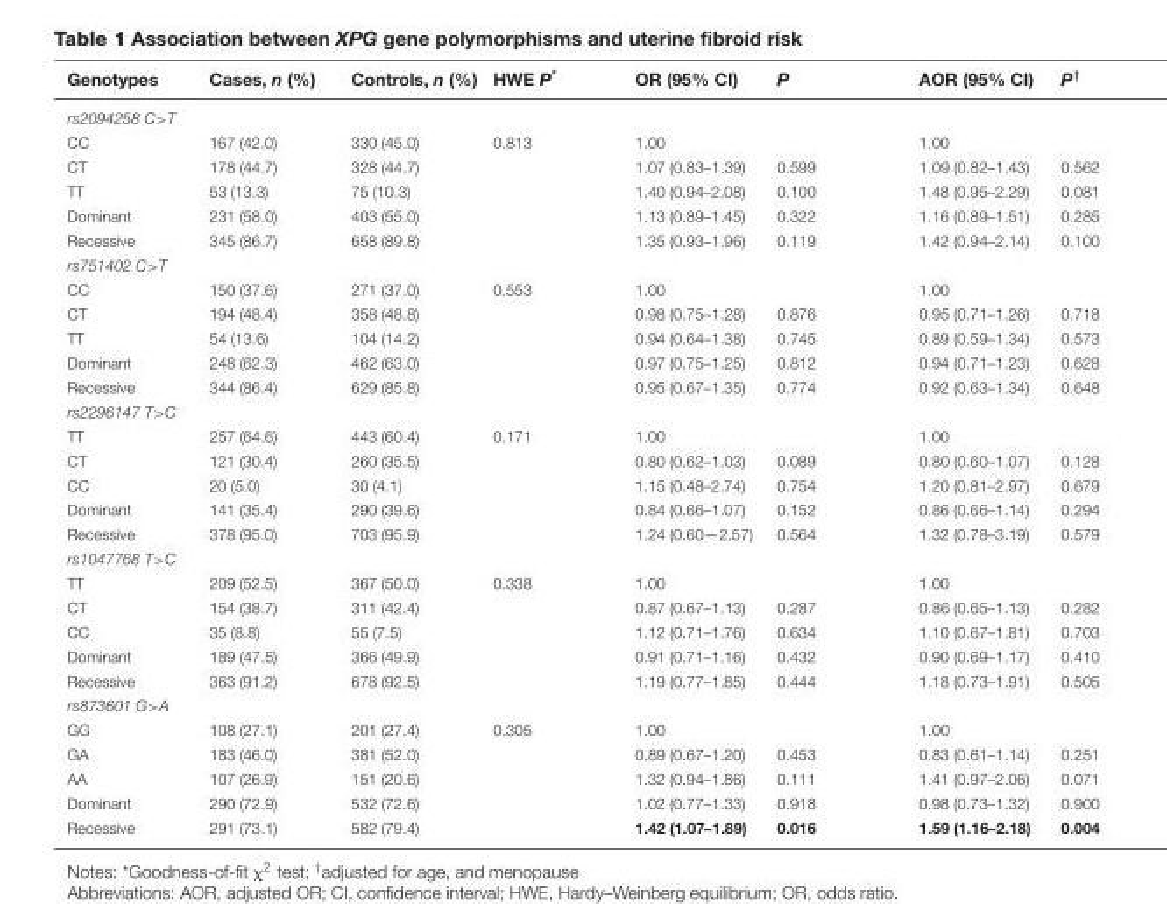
<table><thead><tr><td>Genotypes</td><td>Cases, n (%)</td><td>Controls, n (%)</td><td>HWE P*</td><td>OR (95% CI)</td><td>P</td><td>AOR (95% CI)</td><td>P<sup>†</sup></td></tr></thead><tbody><tr><td colspan="8">rs2094258 C&gt;T</td></tr><tr><td>CC</td><td>167 (42.0)</td><td>330 (45.0)</td><td>0.813</td><td>1.00</td><td></td><td>1.00</td><td></td></tr><tr><td>CT</td><td>178 (44.7)</td><td>328 (44.7)</td><td></td><td>1.07 (0.83–1.39)</td><td>0.599</td><td>1.09 (0.82–1.43)</td><td>0.562</td></tr><tr><td>TT</td><td>53 (13.3)</td><td>75 (10.3)</td><td></td><td>1.40 (0.94–2.08)</td><td>0.100</td><td>1.48 (0.95–2.29)</td><td>0.081</td></tr><tr><td>Dominant</td><td>231 (58.0)</td><td>403 (55.0)</td><td></td><td>1.13 (0.89–1.45)</td><td>0.322</td><td>1.16 (0.89–1.51)</td><td>0.285</td></tr><tr><td>Recessive</td><td>345 (86.7)</td><td>658 (89.8)</td><td></td><td>1.35 (0.93–1.96)</td><td>0.119</td><td>1.42 (0.94–2.14)</td><td>0.100</td></tr><tr><td colspan="8">rs751402 C&gt;T</td></tr><tr><td>CC</td><td>150 (37.6)</td><td>271 (37.0)</td><td>0.553</td><td>1.00</td><td></td><td>1.00</td><td></td></tr><tr><td>CT</td><td>194 (48.4)</td><td>358 (48.8)</td><td></td><td>0.98 (0.75–1.28)</td><td>0.876</td><td>0.95 (0.71–1.26)</td><td>0.718</td></tr><tr><td>TT</td><td>54 (13.6)</td><td>104 (14.2)</td><td></td><td>0.94 (0.64–1.38)</td><td>0.745</td><td>0.89 (0.59–1.34)</td><td>0.573</td></tr><tr><td>Dominant</td><td>248 (62.3)</td><td>462 (63.0)</td><td></td><td>0.97 (0.75–1.25)</td><td>0.812</td><td>0.94 (0.71–1.23)</td><td>0.628</td></tr><tr><td>Recessive</td><td>344 (86.4)</td><td>629 (85.8)</td><td></td><td>0.95 (0.67–1.35)</td><td>0.774</td><td>0.92 (0.63–1.34)</td><td>0.648</td></tr><tr><td colspan="8">rs2296147 T&gt;C</td></tr><tr><td>TT</td><td>257 (64.6)</td><td>443 (60.4)</td><td>0.171</td><td>1.00</td><td></td><td>1.00</td><td></td></tr><tr><td>CT</td><td>121 (30.4)</td><td>260 (35.5)</td><td></td><td>0.80 (0.62–1.03)</td><td>0.089</td><td>0.80 (0.60–1.07)</td><td>0.128</td></tr><tr><td>CC</td><td>20 (5.0)</td><td>30 (4.1)</td><td></td><td>1.15 (0.48–2.74)</td><td>0.754</td><td>1.20 (0.81–2.97)</td><td>0.679</td></tr><tr><td>Dominant</td><td>141 (35.4)</td><td>290 (39.6)</td><td></td><td>0.84 (0.66–1.07)</td><td>0.152</td><td>0.86 (0.66–1.14)</td><td>0.294</td></tr><tr><td>Recessive</td><td>378 (95.0)</td><td>703 (95.9)</td><td></td><td>1.24 (0.60—2.57)</td><td>0.564</td><td>1.32 (0.78–3.19)</td><td>0.579</td></tr><tr><td colspan="8">rs1047768 T&gt;C</td></tr><tr><td>TT</td><td>209 (52.5)</td><td>367 (50.0)</td><td>0.338</td><td>1.00</td><td></td><td>1.00</td><td></td></tr><tr><td>CT</td><td>154 (38.7)</td><td>311 (42.4)</td><td></td><td>0.87 (0.67–1.13)</td><td>0.287</td><td>0.86 (0.65–1.13)</td><td>0.282</td></tr><tr><td>CC</td><td>35 (8.8)</td><td>55 (7.5)</td><td></td><td>1.12 (0.71–1.76)</td><td>0.634</td><td>1.10 (0.67–1.81)</td><td>0.703</td></tr><tr><td>Dominant</td><td>189 (47.5)</td><td>366 (49.9)</td><td></td><td>0.91 (0.71–1.16)</td><td>0.432</td><td>0.90 (0.69–1.17)</td><td>0.410</td></tr><tr><td>Recessive</td><td>363 (91.2)</td><td>678 (92.5)</td><td></td><td>1.19 (0.77–1.85)</td><td>0.444</td><td>1.18 (0.73–1.91)</td><td>0.505</td></tr><tr><td colspan="8">rs873601 G&gt;A</td></tr><tr><td>GG</td><td>108 (27.1)</td><td>201 (27.4)</td><td>0.305</td><td>1.00</td><td></td><td>1.00</td><td></td></tr><tr><td>GA</td><td>183 (46.0)</td><td>381 (52.0)</td><td></td><td>0.89 (0.67–1.20)</td><td>0.453</td><td>0.83 (0.61–1.14)</td><td>0.251</td></tr><tr><td>AA</td><td>107 (26.9)</td><td>151 (20.6)</td><td></td><td>1.32 (0.94–1.86)</td><td>0.111</td><td>1.41 (0.97–2.06)</td><td>0.071</td></tr><tr><td>Dominant</td><td>290 (72.9)</td><td>532 (72.6)</td><td></td><td>1.02 (0.77–1.33)</td><td>0.918</td><td>0.98 (0.73–1.32)</td><td>0.900</td></tr><tr><td>Recessive</td><td>291 (73.1)</td><td>582 (79.4)</td><td></td><td>1.42 (1.07–1.89)</td><td>0.016</td><td>1.59 (1.16–2.18)</td><td>0.004</td></tr></tbody></table>